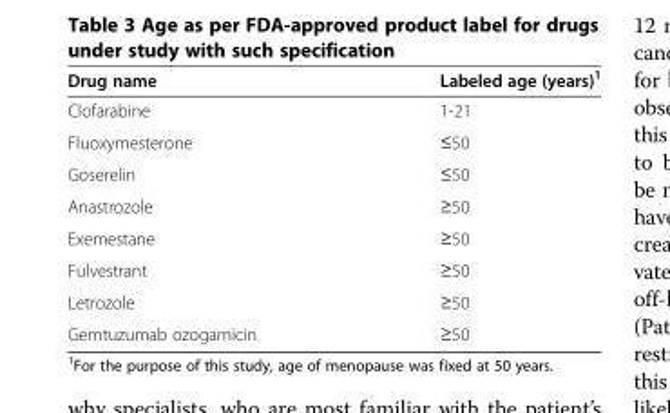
<table><thead><tr><td>Drug name</td><td>Labeled age (years)<sup>1</sup></td></tr></thead><tbody><tr><td>Clofarabine</td><td>1-21</td></tr><tr><td>Fluoxymesterone</td><td>≤50</td></tr><tr><td>Goserelin</td><td>≤50</td></tr><tr><td>Anastrozole</td><td>≥50</td></tr><tr><td>Exemestane</td><td>≥50</td></tr><tr><td>Fulvestrant</td><td>≥50</td></tr><tr><td>Letrozole</td><td>≥50</td></tr><tr><td>Gemtuzumab ozogamicin</td><td>≥50</td></tr></tbody></table>